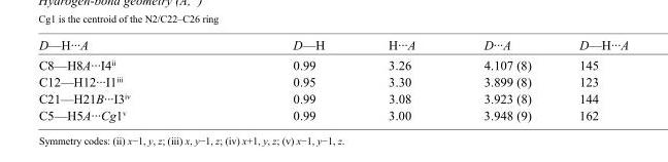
<table><tbody><tr><td>D—H···A</td><td>D—H</td><td>H···A</td><td>D···A</td><td>D—H···A</td></tr><tr><td>C8—H8A···I4<sup>ii</sup></td><td>0.99</td><td>3.26</td><td>4.107 (8)</td><td>145</td></tr><tr><td>C12—H12···I1<sup>iii</sup></td><td>0.95</td><td>3.30</td><td>3.899 (8)</td><td>123</td></tr><tr><td>C21—H21B···I3<sup>iv</sup></td><td>0.99</td><td>3.08</td><td>3.923 (8)</td><td>144</td></tr><tr><td>C5—H5A···Cg1<sup>v</sup></td><td>0.99</td><td>3.00</td><td>3.948 (9)</td><td>162</td></tr></tbody></table>